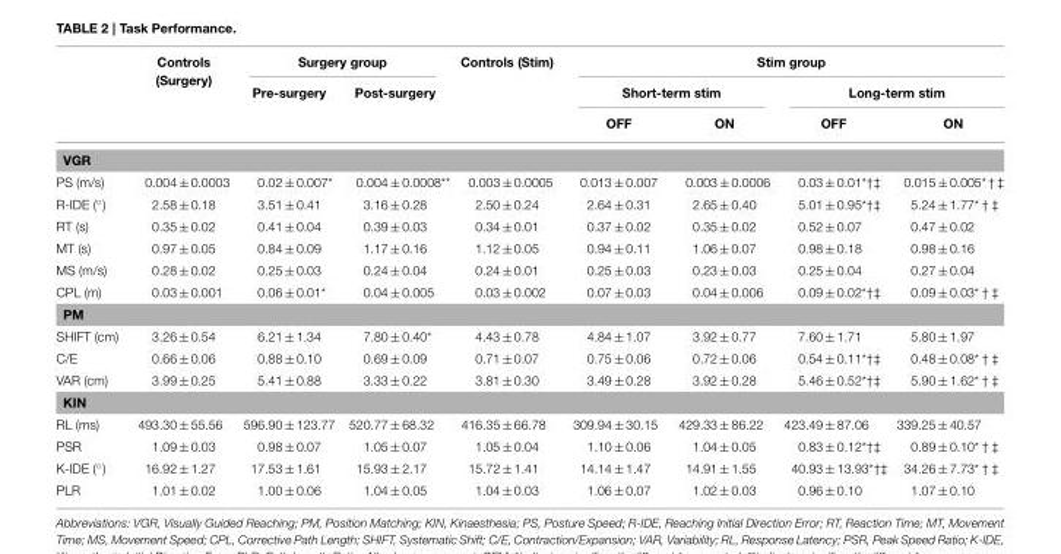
<table><thead><tr><td rowspan="3"></td><td rowspan="3">Controls (Surgery)</td><td colspan="2">Surgery group</td><td rowspan="3">Controls (Stim)</td><td colspan="4">Stim group</td></tr><tr><td rowspan="2">Pre-surgery</td><td rowspan="2">Post-surgery</td><td colspan="2">Short-term stim</td><td colspan="2">Long-term stim</td></tr><tr><td>OFF</td><td>ON</td><td>OFF</td><td>ON</td></tr></thead><tbody><tr><td colspan="9">VGR</td></tr><tr><td>PS (m/s)</td><td>0.004 ± 0.0003</td><td>0.02 ± 0.007*</td><td>0.004 ± 0.0008**</td><td>0.003 ± 0.0005</td><td>0.013 ± 0.007</td><td>0.003 ± 0.0006</td><td>0.03 ± 0.01*†‡</td><td>0.015 ± 0.005* † ‡</td></tr><tr><td>R-IDE (◦)</td><td>2.58 ± 0.18</td><td>3.51 ± 0.41</td><td>3.16 ± 0.28</td><td>2.50 ± 0.24</td><td>2.64 ± 0.31</td><td>2.65 ± 0.40</td><td>5.01 ± 0.95*†‡</td><td>5.24 ± 1.77* † ‡</td></tr><tr><td>RT (s)</td><td>0.35 ± 0.02</td><td>0.41 ± 0.04</td><td>0.39 ± 0.03</td><td>0.34 ± 0.01</td><td>0.37 ± 0.02</td><td>0.35 ± 0.02</td><td>0.52 ± 0.07</td><td>0.47 ± 0.02</td></tr><tr><td>MT (s)</td><td>0.97 ± 0.05</td><td>0.84 ± 0.09</td><td>1.17 ± 0.16</td><td>1.12 ± 0.05</td><td>0.94 ± 0.11</td><td>1.06 ± 0.07</td><td>0.98 ± 0.18</td><td>0.98 ± 0.16</td></tr><tr><td>MS (m/s)</td><td>0.28 ± 0.02</td><td>0.25 ± 0.03</td><td>0.24 ± 0.04</td><td>0.24 ± 0.01</td><td>0.25 ± 0.03</td><td>0.23 ± 0.03</td><td>0.25 ± 0.04</td><td>0.27 ± 0.04</td></tr><tr><td>CPL (m)</td><td>0.03 ± 0.001</td><td>0.06 ± 0.01*</td><td>0.04 ± 0.005</td><td>0.03 ± 0.002</td><td>0.07 ± 0.03</td><td>0.04 ± 0.006</td><td>0.09 ± 0.02*†‡</td><td>0.09 ± 0.03* † ‡</td></tr><tr><td colspan="9">PM</td></tr><tr><td>SHIFT (cm)</td><td>3.26 ± 0.54</td><td>6.21 ± 1.34</td><td>7.80 ± 0.40*</td><td>4.43 ± 0.78</td><td>4.84 ± 1.07</td><td>3.92 ± 0.77</td><td>7.60 ± 1.71</td><td>5.80 ± 1.97</td></tr><tr><td>C/E</td><td>0.66 ± 0.06</td><td>0.88 ± 0.10</td><td>0.69 ± 0.09</td><td>0.71 ± 0.07</td><td>0.75 ± 0.06</td><td>0.72 ± 0.06</td><td>0.54 ± 0.11*†‡</td><td>0.48 ± 0.08* † ‡</td></tr><tr><td>VAR (cm)</td><td>3.99 ± 0.25</td><td>5.41 ± 0.88</td><td>3.33 ± 0.22</td><td>3.81 ± 0.30</td><td>3.49 ± 0.28</td><td>3.92 ± 0.28</td><td>5.46 ± 0.52*†‡</td><td>5.90 ± 1.62* † ‡</td></tr><tr><td colspan="9">KIN</td></tr><tr><td>RL (ms)</td><td>493.30 ± 55.56</td><td>596.90 ± 123.77</td><td>520.77 ± 68.32</td><td>416.35 ± 66.78</td><td>309.94 ± 30.15</td><td>429.33 ± 86.22</td><td>423.49 ± 87.06</td><td>339.25 ± 40.57</td></tr><tr><td>PSR</td><td>1.09 ± 0.03</td><td>0.98 ± 0.07</td><td>1.05 ± 0.07</td><td>1.05 ± 0.04</td><td>1.10 ± 0.06</td><td>1.04 ± 0.05</td><td>0.83 ± 0.12*†‡</td><td>0.89 ± 0.10* † ‡</td></tr><tr><td>K-IDE (◦)</td><td>16.92 ± 1.27</td><td>17.53 ± 1.61</td><td>15.93 ± 2.17</td><td>15.72 ± 1.41</td><td>14.14 ± 1.47</td><td>14.91 ± 1.55</td><td>40.93 ± 13.93*†‡</td><td>34.26 ± 7.73* † ‡</td></tr><tr><td>PLR</td><td>1.01 ± 0.02</td><td>1.00 ± 0.06</td><td>1.04 ± 0.05</td><td>1.04 ± 0.03</td><td>1.06 ± 0.07</td><td>1.02 ± 0.03</td><td>0.96 ± 0.10</td><td>1.07 ± 0.10</td></tr></tbody></table>